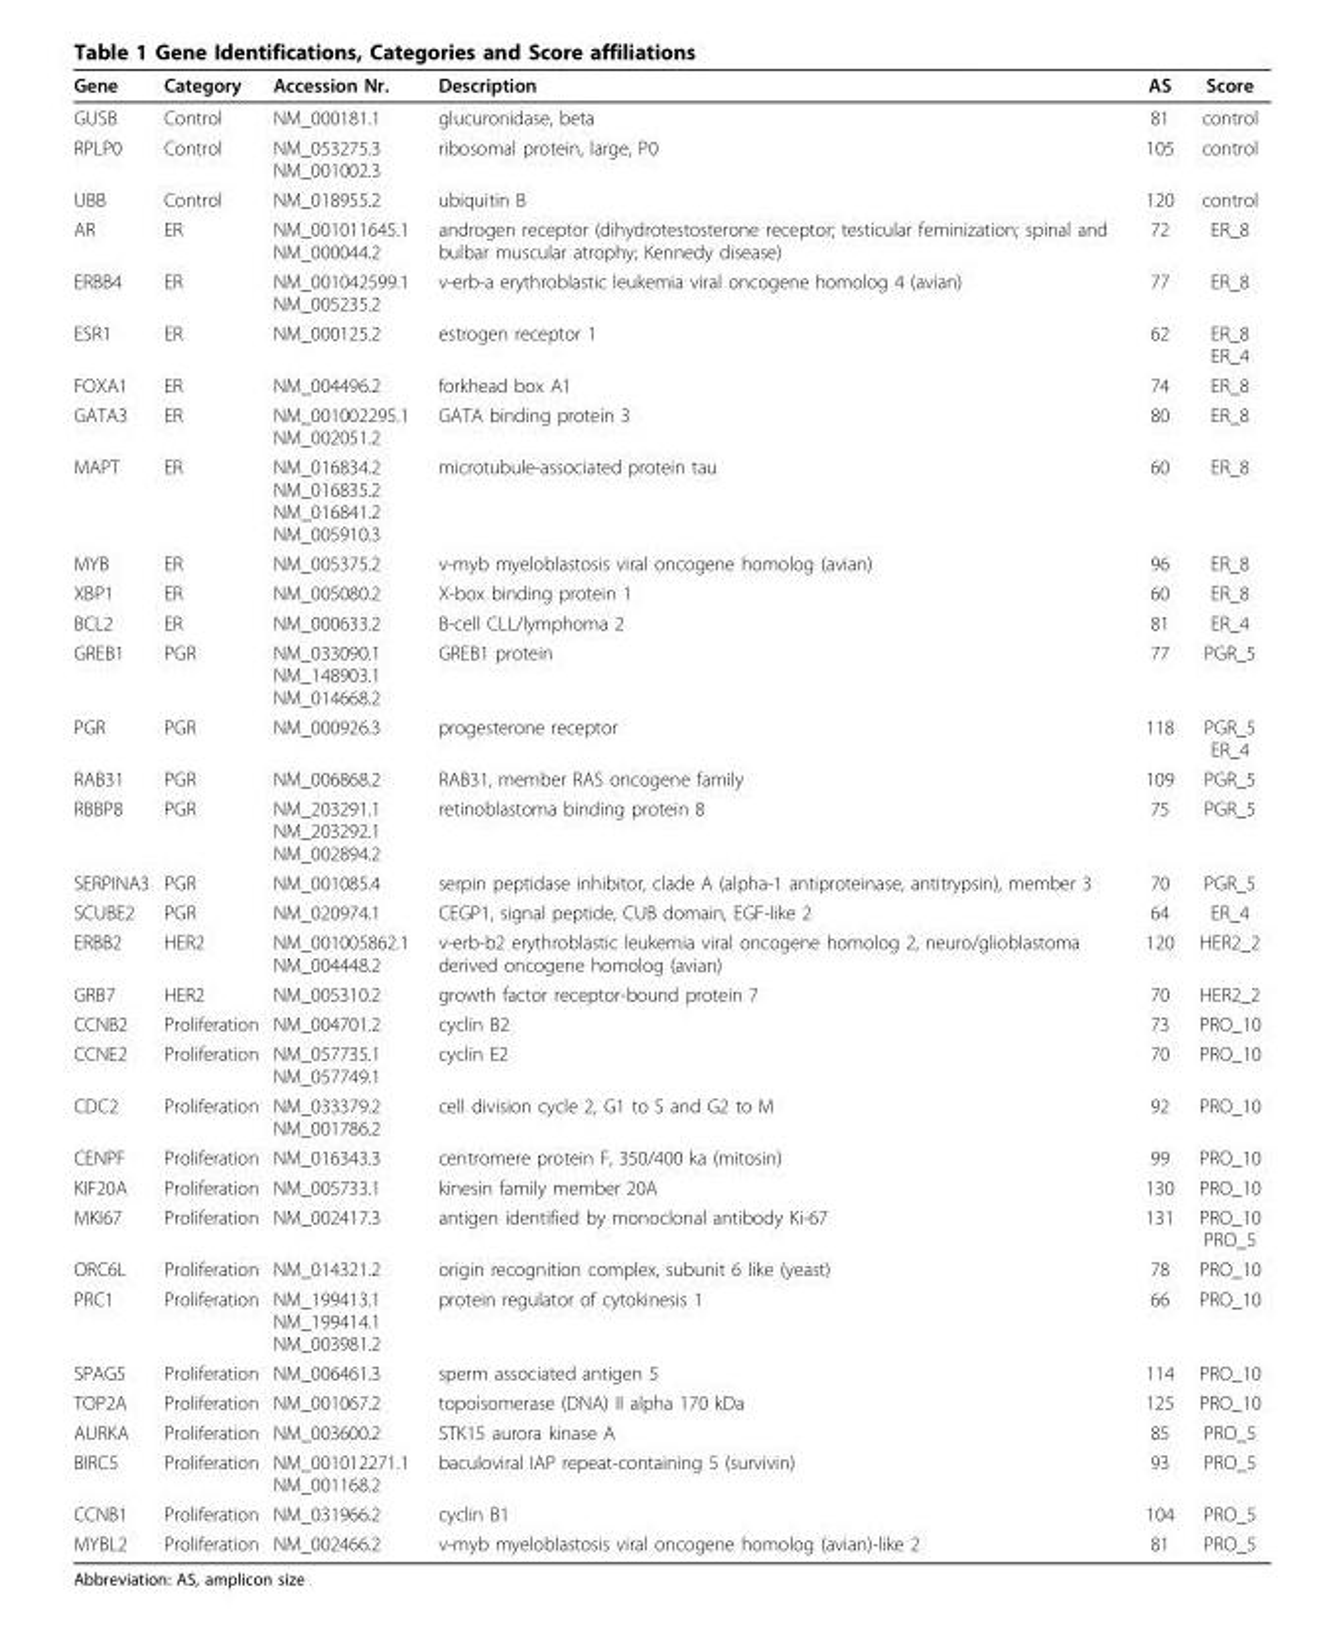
<table><thead><tr><td>Gene</td><td>Category</td><td>Accession Nr.</td><td>Description</td><td>AS</td><td>Score</td></tr></thead><tbody><tr><td>GUSB</td><td>Control</td><td>NM_000181.1</td><td>glucuronidase, beta</td><td>81</td><td>control</td></tr><tr><td>RPLP0</td><td>Control</td><td>NM_053275.3 NM_001002.3</td><td>ribosomal protein, large, P0</td><td>105</td><td>control</td></tr><tr><td>UBB</td><td>Control</td><td>NM_018955.2</td><td>ubiquitin B</td><td>120</td><td>control</td></tr><tr><td>AR</td><td>ER</td><td>NM_001011645.1 NM_000044.2</td><td>androgen receptor (dihydrotestosterone receptor; testicular feminization; spinal and bulbar muscular atrophy; Kennedy disease)</td><td>72</td><td>ER_8</td></tr><tr><td>ERBB4</td><td>ER</td><td>NM_001042599.1 NM_005235.2</td><td>v-erb-a erythroblastic leukemia viral oncogene homolog 4 (avian)</td><td>77</td><td>ER_8</td></tr><tr><td>ESR1</td><td>ER</td><td>NM_000125.2</td><td>estrogen receptor 1</td><td>62</td><td>ER_8 ER_4</td></tr><tr><td>FOXA1</td><td>ER</td><td>NM_004496.2</td><td>forkhead box A1</td><td>74</td><td>ER_8</td></tr><tr><td>GATA3</td><td>ER</td><td>NM_001002295.1 NM_002051.2</td><td>GATA binding protein 3</td><td>80</td><td>ER_8</td></tr><tr><td>MAPT</td><td>ER</td><td>NM_016834.2 NM_016835.2 NM_016841.2 NM_005910.3</td><td>microtubule-associated protein tau</td><td>60</td><td>ER_8</td></tr><tr><td>MYB</td><td>ER</td><td>NM_005375.2</td><td>v-myb myeloblastosis viral oncogene homolog (avian)</td><td>96</td><td>ER_8</td></tr><tr><td>XBP1</td><td>ER</td><td>NM_005080.2</td><td>X-box binding protein 1</td><td>60</td><td>ER_8</td></tr><tr><td>BCL2</td><td>ER</td><td>NM_000633.2</td><td>B-cell CLL/lymphoma 2</td><td>81</td><td>ER_4</td></tr><tr><td>GREB1</td><td>PGR</td><td>NM_033090.1 NM_148903.1 NM_014668.2</td><td>GREB1 protein</td><td>77</td><td>PGR_5</td></tr><tr><td>PGR</td><td>PGR</td><td>NM_000926.3</td><td>progesterone receptor</td><td>118</td><td>PGR_5 ER_4</td></tr><tr><td>RAB31</td><td>PGR</td><td>NM_006868.2</td><td>RAB31, member RAS oncogene family</td><td>109</td><td>PGR_5</td></tr><tr><td>RBBP8</td><td>PGR</td><td>NM_203291.1 NM_203292.1 NM_002894.2</td><td>retinoblastoma binding protein 8</td><td>75</td><td>PGR_5</td></tr><tr><td>SERPINA3</td><td>PGR</td><td>NM_001085.4</td><td>serpin peptidase inhibitor, clade A (alpha-1 antiproteinase, antitrypsin), member 3</td><td>70</td><td>PGR_5</td></tr><tr><td>SCUBE2</td><td>PGR</td><td>NM_020974.1</td><td>CEGP1, signal peptide, CUB domain, EGF-like 2</td><td>64</td><td>ER_4</td></tr><tr><td>ERBB2</td><td>HER2</td><td>NM_001005862.1 NM_004448.2</td><td>v-erb-b2 erythroblastic leukemia viral oncogene homolog 2, neuro/glioblastoma derived oncogene homolog (avian)</td><td>120</td><td>HER2_2</td></tr><tr><td>GRB7</td><td>HER2</td><td>NM_005310.2</td><td>growth factor receptor-bound protein 7</td><td>70</td><td>HER2_2</td></tr><tr><td>CCNB2</td><td>Proliferation</td><td>NM_004701.2</td><td>cyclin B2</td><td>73</td><td>PRO_10</td></tr><tr><td>CCNE2</td><td>Proliferation</td><td>NM_057735.1 NM_057749.1</td><td>cyclin E2</td><td>70</td><td>PRO_10</td></tr><tr><td>CDC2</td><td>Proliferation</td><td>NM_033379.2 NM_001786.2</td><td>cell division cycle 2, G1 to S and G2 to M</td><td>92</td><td>PRO_10</td></tr><tr><td>CENPF</td><td>Proliferation</td><td>NM_016343.3</td><td>centromere protein F, 350/400 ka (mitosin)</td><td>99</td><td>PRO_10</td></tr><tr><td>KIF20A</td><td>Proliferation</td><td>NM_005733.1</td><td>kinesin family member 20A</td><td>130</td><td>PRO_10</td></tr><tr><td>MKI67</td><td>Proliferation</td><td>NM_002417.3</td><td>antigen identified by monoclonal antibody Ki-67</td><td>131</td><td>PRO_10 PRO_5</td></tr><tr><td>ORC6L</td><td>Proliferation</td><td>NM_014321.2</td><td>origin recognition complex, subunit 6 like (yeast)</td><td>78</td><td>PRO_10</td></tr><tr><td>PRC1</td><td>Proliferation</td><td>NM_199413.1 NM_199414.1 NM_003981.2</td><td>protein regulator of cytokinesis 1</td><td>66</td><td>PRO_10</td></tr><tr><td>SPAG5</td><td>Proliferation</td><td>NM_006461.3</td><td>sperm associated antigen 5</td><td>114</td><td>PRO_10</td></tr><tr><td>TOP2A</td><td>Proliferation</td><td>NM_001067.2</td><td>topoisomerase (DNA) II alpha 170 kDa</td><td>125</td><td>PRO_10</td></tr><tr><td>AURKA</td><td>Proliferation</td><td>NM_003600.2</td><td>STK15 aurora kinase A</td><td>85</td><td>PRO_5</td></tr><tr><td>BIRC5</td><td>Proliferation</td><td>NM_001012271.1 NM_001168.2</td><td>baculoviral IAP repeat-containing 5 (survivin)</td><td>93</td><td>PRO_5</td></tr><tr><td>CCNB1</td><td>Proliferation</td><td>NM_031966.2</td><td>cyclin B1</td><td>104</td><td>PRO_5</td></tr><tr><td>MYBL2</td><td>Proliferation</td><td>NM_002466.2</td><td>v-myb myeloblastosis viral oncogene homolog (avian)-like 2</td><td>81</td><td>PRO_5</td></tr></tbody></table>